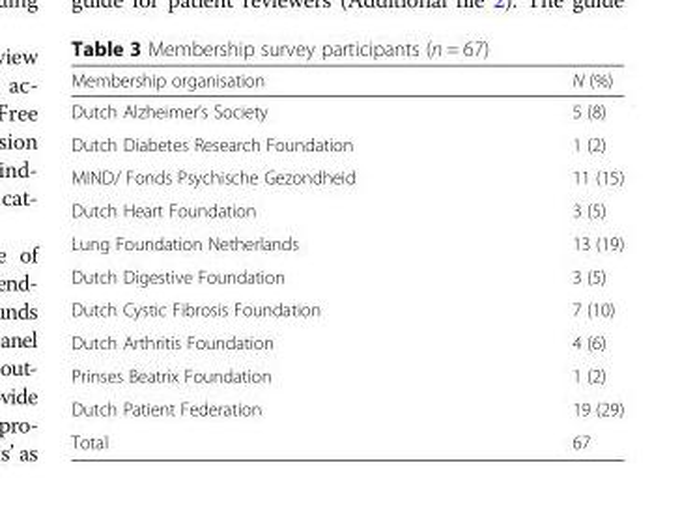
<table><thead><tr><td>Membership organisation</td><td>N (%)</td></tr></thead><tbody><tr><td>Dutch Alzheimer’s Society</td><td>5 (8)</td></tr><tr><td>Dutch Diabetes Research Foundation</td><td>1 (2)</td></tr><tr><td>MIND/ Fonds Psychische Gezondheid</td><td>11 (15)</td></tr><tr><td>Dutch Heart Foundation</td><td>3 (5)</td></tr><tr><td>Lung Foundation Netherlands</td><td>13 (19)</td></tr><tr><td>Dutch Digestive Foundation</td><td>3 (5)</td></tr><tr><td>Dutch Cystic Fibrosis Foundation</td><td>7 (10)</td></tr><tr><td>Dutch Arthritis Foundation</td><td>4 (6)</td></tr><tr><td>Prinses Beatrix Foundation</td><td>1 (2)</td></tr><tr><td>Dutch Patient Federation</td><td>19 (29)</td></tr><tr><td>Total</td><td>67</td></tr></tbody></table>